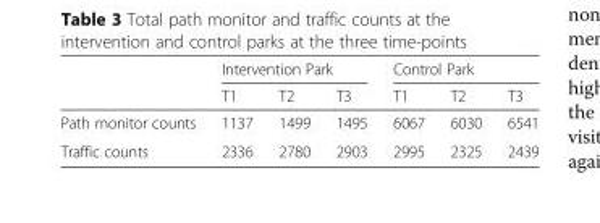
<table><thead><tr><td rowspan="2"></td><td colspan="3">Intervention Park</td><td colspan="3">Control Park</td></tr><tr><td>T1</td><td>T2</td><td>T3</td><td>T1</td><td>T2</td><td>T3</td></tr></thead><tbody><tr><td>Path monitor counts</td><td>1137</td><td>1499</td><td>1495</td><td>6067</td><td>6030</td><td>6541</td></tr><tr><td>Traffic counts</td><td>2336</td><td>2780</td><td>2903</td><td>2995</td><td>2325</td><td>2439</td></tr></tbody></table>